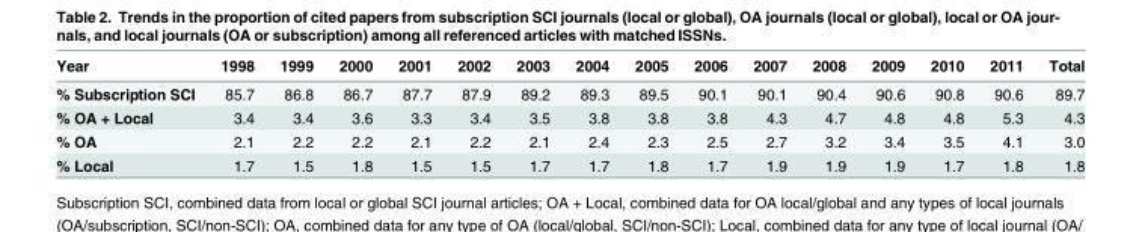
<table><thead><tr><td>Year</td><td>1998</td><td>1999</td><td>2000</td><td>2001</td><td>2002</td><td>2003</td><td>2004</td><td>2005</td><td>2006</td><td>2007</td><td>2008</td><td>2009</td><td>2010</td><td>2011</td><td>Total</td></tr></thead><tbody><tr><td>% Subscription SCI</td><td>85.7</td><td>86.8</td><td>86.7</td><td>87.7</td><td>87.9</td><td>89.2</td><td>89.3</td><td>89.5</td><td>90.1</td><td>90.1</td><td>90.4</td><td>90.6</td><td>90.8</td><td>90.6</td><td>89.7</td></tr><tr><td>% OA + Local</td><td>3.4</td><td>3.4</td><td>3.6</td><td>3.3</td><td>3.4</td><td>3.5</td><td>3.8</td><td>3.8</td><td>3.8</td><td>4.3</td><td>4.7</td><td>4.8</td><td>4.8</td><td>5.3</td><td>4.3</td></tr><tr><td>% OA</td><td>2.1</td><td>2.2</td><td>2.2</td><td>2.1</td><td>2.2</td><td>2.1</td><td>2.4</td><td>2.3</td><td>2.5</td><td>2.7</td><td>3.2</td><td>3.4</td><td>3.5</td><td>4.1</td><td>3.0</td></tr><tr><td>% Local</td><td>1.7</td><td>1.5</td><td>1.8</td><td>1.5</td><td>1.5</td><td>1.7</td><td>1.7</td><td>1.8</td><td>1.7</td><td>1.9</td><td>1.9</td><td>1.9</td><td>1.7</td><td>1.8</td><td>1.8</td></tr></tbody></table>